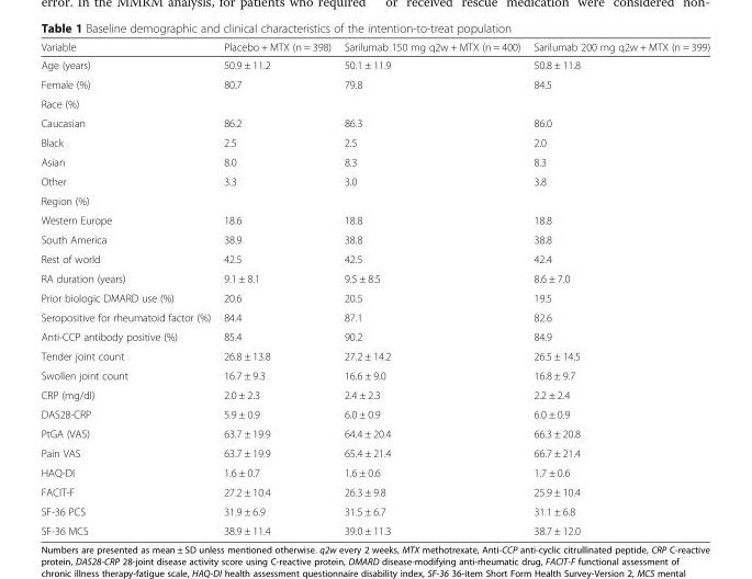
<table><thead><tr><td>Variable</td><td>Placebo + MTX (n = 398)</td><td>Sarilumab 150 mg q2w + MTX (n = 400)</td><td>Sarilumab 200 mg q2w + MTX (n = 399)</td></tr></thead><tbody><tr><td>Age (years)</td><td>50.9 ± 11.2</td><td>50.1 ± 11.9</td><td>50.8 ± 11.8</td></tr><tr><td>Female (%)</td><td>80.7</td><td>79.8</td><td>84.5</td></tr><tr><td colspan="4">Race (%)</td></tr><tr><td>Caucasian</td><td>86.2</td><td>86.3</td><td>86.0</td></tr><tr><td>Black</td><td>2.5</td><td>2.5</td><td>2.0</td></tr><tr><td>Asian</td><td>8.0</td><td>8.3</td><td>8.3</td></tr><tr><td>Other</td><td>3.3</td><td>3.0</td><td>3.8</td></tr><tr><td colspan="4">Region (%)</td></tr><tr><td>Western Europe</td><td>18.6</td><td>18.8</td><td>18.8</td></tr><tr><td>South America</td><td>38.9</td><td>38.8</td><td>38.8</td></tr><tr><td>Rest of world</td><td>42.5</td><td>42.5</td><td>42.4</td></tr><tr><td>RA duration (years)</td><td>9.1 ± 8.1</td><td>9.5 ± 8.5</td><td>8.6 ± 7.0</td></tr><tr><td>Prior biologic DMARD use (%)</td><td>20.6</td><td>20.5</td><td>19.5</td></tr><tr><td>Seropositive for rheumatoid factor (%)</td><td>84.4</td><td>87.1</td><td>82.6</td></tr><tr><td>Anti-CCP antibody positive (%)</td><td>85.4</td><td>90.2</td><td>84.9</td></tr><tr><td>Tender joint count</td><td>26.8 ± 13.8</td><td>27.2 ± 14.2</td><td>26.5 ± 14.5</td></tr><tr><td>Swollen joint count</td><td>16.7 ± 9.3</td><td>16.6 ± 9.0</td><td>16.8 ± 9.7</td></tr><tr><td>CRP (mg/dl)</td><td>2.0 ± 2.3</td><td>2.4 ± 2.3</td><td>2.2 ± 2.4</td></tr><tr><td>DAS28-CRP</td><td>5.9 ± 0.9</td><td>6.0 ± 0.9</td><td>6.0 ± 0.9</td></tr><tr><td>PtGA (VAS)</td><td>63.7 ± 19.9</td><td>64.4 ± 20.4</td><td>66.3 ± 20.8</td></tr><tr><td>Pain VAS</td><td>63.7 ± 19.9</td><td>65.4 ± 21.4</td><td>66.7 ± 21.4</td></tr><tr><td>HAQ-DI</td><td>1.6 ± 0.7</td><td>1.6 ± 0.6</td><td>1.7 ± 0.6</td></tr><tr><td>FACIT-F</td><td>27.2 ± 10.4</td><td>26.3 ± 9.8</td><td>25.9 ± 10.4</td></tr><tr><td>SF-36 PCS</td><td>31.9 ± 6.9</td><td>31.5 ± 6.7</td><td>31.1 ± 6.8</td></tr><tr><td>SF-36 MCS</td><td>38.9 ± 11.4</td><td>39.0 ± 11.3</td><td>38.7 ± 12.0</td></tr></tbody></table>